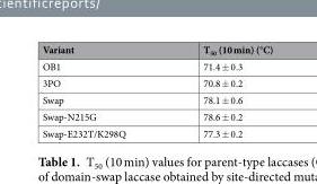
<table><thead><tr><td>Variant</td><td>T<sub>50</sub> (10 min) (°C)</td></tr></thead><tbody><tr><td>OB1</td><td>71.4 ± 0.3</td></tr><tr><td>3PO</td><td>70.8 ± 0.2</td></tr><tr><td>Swap</td><td>78.1 ± 0.6</td></tr><tr><td>Swap-N215G</td><td>78.6 ± 0.2</td></tr><tr><td>Swap-E232T/K298Q</td><td>77.3 ± 0.2</td></tr></tbody></table>